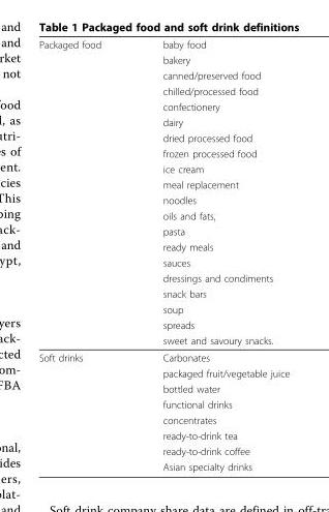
<table><thead><tr><td rowspan="20">Packaged food</td><td rowspan="20">baby food bakery canned/preserved food chilled/processed food confectionery dairy dried processed food frozen processed food ice cream meal replacement noodles oils and fats, pasta ready meals sauces dressings and condiments snack bars soup spreads sweet and savoury snacks.</td></tr><tr></tr><tr></tr><tr></tr><tr></tr><tr></tr><tr></tr><tr></tr><tr></tr><tr></tr><tr></tr><tr></tr><tr></tr><tr></tr><tr></tr><tr></tr><tr></tr><tr></tr><tr></tr><tr></tr></thead><tbody><tr><td rowspan="8">Soft drinks</td><td>Carbonates</td></tr><tr><td>packaged fruit/vegetable juice</td></tr><tr><td>bottled water</td></tr><tr><td>functional drinks</td></tr><tr><td>concentrates</td></tr><tr><td>ready-to-drink tea</td></tr><tr><td>ready-to-drink coffee</td></tr><tr><td>Asian specialty drinks</td></tr></tbody></table>